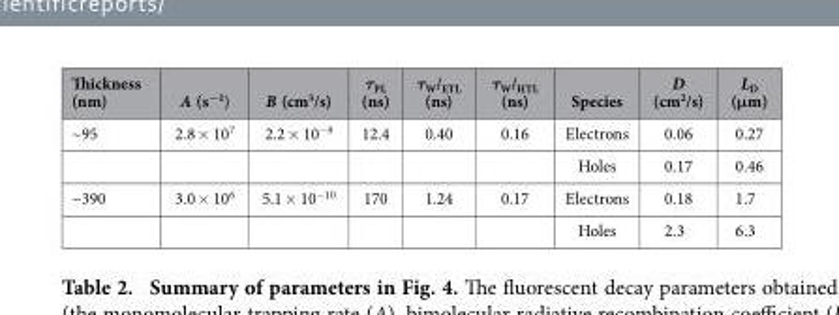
<table><thead><tr><td>Thickness (nm)</td><td>A (s<sup>−1</sup>)</td><td>B (cm<sup>3</sup>/s)</td><td>τ<sub>PL</sub> (ns)</td><td>τ<sub>W</sub>/<sub>ETL</sub> (ns)</td><td>τ<sub>W</sub>/<sub>HTL</sub> (ns)</td><td>Species</td><td>D (cm<sup>2</sup>/s)</td><td>L<sub>D</sub> (μm)</td></tr></thead><tbody><tr><td rowspan="2">~95</td><td>2.8 × 10<sup>7</sup></td><td>2.2 × 10<sup>−9</sup></td><td>12.4</td><td>0.40</td><td>0.16</td><td>Electrons</td><td>0.06</td><td>0.27</td></tr><tr><td></td><td></td><td></td><td></td><td></td><td>Holes</td><td>0.17</td><td>0.46</td></tr><tr><td rowspan="2">~390</td><td>3.0 × 10<sup>6</sup></td><td>5.1 × 10<sup>−10</sup></td><td>170</td><td>1.24</td><td>0.17</td><td>Electrons</td><td>0.18</td><td>1.7</td></tr><tr><td></td><td></td><td></td><td></td><td></td><td>Holes</td><td>2.3</td><td>6.3</td></tr></tbody></table>